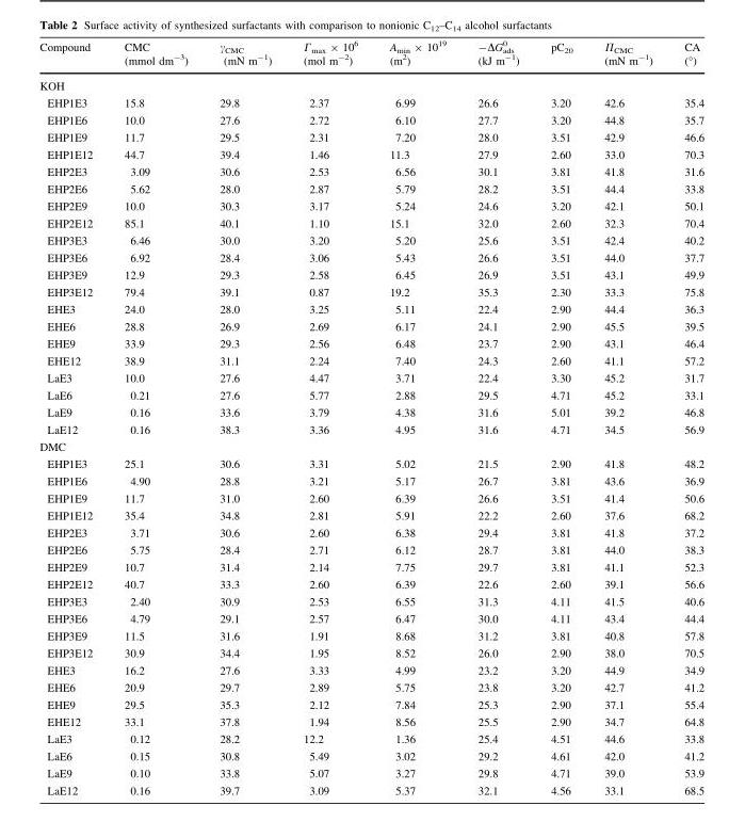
<table><thead><tr><td>Compound</td><td>CMC (mmol dm<sup>-3</sup>)</td><td>γ<sub>CMC</sub> (mN m<sup>-1</sup>)</td><td>Γ<sub>max</sub> × 10<sup>6</sup> (mol m<sup>-2</sup>)</td><td>A<sub>min</sub> × 10<sup>19</sup> (m<sup>2</sup>)</td><td>-ΔG<sub>ads</sub> <sup>0</sup> (kJ m<sup>-1</sup>)</td><td>pC<sub>20</sub></td><td>Π<sub>CMC</sub> (mN m<sup>-1</sup>)</td><td>CA (°)</td></tr></thead><tbody><tr><td colspan="9">KOH</td></tr><tr><td>EHP1E3</td><td>15.8</td><td>29.8</td><td>2.37</td><td>6.99</td><td>26.6</td><td>3.20</td><td>42.6</td><td>35.4</td></tr><tr><td>EHP1E6</td><td>10.0</td><td>27.6</td><td>2.72</td><td>6.10</td><td>27.7</td><td>3.20</td><td>44.8</td><td>35.7</td></tr><tr><td>EHP1E9</td><td>11.7</td><td>29.5</td><td>2.31</td><td>7.20</td><td>28.0</td><td>3.51</td><td>42.9</td><td>46.6</td></tr><tr><td>EHP1E12</td><td>44.7</td><td>39.4</td><td>1.46</td><td>11.3</td><td>27.9</td><td>2.60</td><td>33.0</td><td>70.3</td></tr><tr><td>EHP2E3</td><td>3.09</td><td>30.6</td><td>2.53</td><td>6.56</td><td>30.1</td><td>3.81</td><td>41.8</td><td>31.6</td></tr><tr><td>EHP2E6</td><td>5.62</td><td>28.0</td><td>2.87</td><td>5.79</td><td>28.2</td><td>3.51</td><td>44.4</td><td>33.8</td></tr><tr><td>EHP2E9</td><td>10.0</td><td>30.3</td><td>3.17</td><td>5.24</td><td>24.6</td><td>3.20</td><td>42.1</td><td>50.1</td></tr><tr><td>EHP2E12</td><td>85.1</td><td>40.1</td><td>1.10</td><td>15.1</td><td>32.0</td><td>2.60</td><td>32.3</td><td>70.4</td></tr><tr><td>EHP3E3</td><td>6.46</td><td>30.0</td><td>3.20</td><td>5.20</td><td>25.6</td><td>3.51</td><td>42.4</td><td>40.2</td></tr><tr><td>EHP3E6</td><td>6.92</td><td>28.4</td><td>3.06</td><td>5.43</td><td>26.6</td><td>3.51</td><td>44.0</td><td>37.7</td></tr><tr><td>EHP3E9</td><td>12.9</td><td>29.3</td><td>2.58</td><td>6.45</td><td>26.9</td><td>3.51</td><td>43.1</td><td>49.9</td></tr><tr><td>EHP3E12</td><td>79.4</td><td>39.1</td><td>0.87</td><td>19.2</td><td>35.3</td><td>2.30</td><td>33.3</td><td>75.8</td></tr><tr><td>EHE3</td><td>24.0</td><td>28.0</td><td>3.25</td><td>5.11</td><td>22.4</td><td>2.90</td><td>44.4</td><td>36.3</td></tr><tr><td>EHE6</td><td>28.8</td><td>26.9</td><td>2.69</td><td>6.17</td><td>24.1</td><td>2.90</td><td>45.5</td><td>39.5</td></tr><tr><td>EHE9</td><td>33.9</td><td>29.3</td><td>2.56</td><td>6.48</td><td>23.7</td><td>2.90</td><td>43.1</td><td>46.4</td></tr><tr><td>EHE12</td><td>38.9</td><td>31.1</td><td>2.24</td><td>7.40</td><td>24.3</td><td>2.60</td><td>41.1</td><td>57.2</td></tr><tr><td>LaE3</td><td>10.0</td><td>27.6</td><td>4.47</td><td>3.71</td><td>22.4</td><td>3.30</td><td>45.2</td><td>31.7</td></tr><tr><td>LaE6</td><td>0.21</td><td>27.6</td><td>5.77</td><td>2.88</td><td>29.5</td><td>4.71</td><td>45.2</td><td>33.1</td></tr><tr><td>LaE9</td><td>0.16</td><td>33.6</td><td>3.79</td><td>4.38</td><td>31.6</td><td>5.01</td><td>39.2</td><td>46.8</td></tr><tr><td>LaE12</td><td>0.16</td><td>38.3</td><td>3.36</td><td>4.95</td><td>31.6</td><td>4.71</td><td>34.5</td><td>56.9</td></tr><tr><td colspan="9">DMC</td></tr><tr><td>EHP1E3</td><td>25.1</td><td>30.6</td><td>3.31</td><td>5.02</td><td>21.5</td><td>2.90</td><td>41.8</td><td>48.2</td></tr><tr><td>EHP1E6</td><td>4.90</td><td>28.8</td><td>3.21</td><td>5.17</td><td>26.7</td><td>3.81</td><td>43.6</td><td>36.9</td></tr><tr><td>EHP1E9</td><td>11.7</td><td>31.0</td><td>2.60</td><td>6.39</td><td>26.6</td><td>3.51</td><td>41.4</td><td>50.6</td></tr><tr><td>EHP1E12</td><td>35.4</td><td>34.8</td><td>2.81</td><td>5.91</td><td>22.2</td><td>2.60</td><td>37.6</td><td>68.2</td></tr><tr><td>EHP2E3</td><td>3.71</td><td>30.6</td><td>2.60</td><td>6.38</td><td>29.4</td><td>3.81</td><td>41.8</td><td>37.2</td></tr><tr><td>EHP2E6</td><td>5.75</td><td>28.4</td><td>2.71</td><td>6.12</td><td>28.7</td><td>3.81</td><td>44.0</td><td>38.3</td></tr><tr><td>EHP2E9</td><td>10.7</td><td>31.4</td><td>2.14</td><td>7.75</td><td>29.7</td><td>3.81</td><td>41.1</td><td>52.3</td></tr><tr><td>EHP2E12</td><td>40.7</td><td>33.3</td><td>2.60</td><td>6.39</td><td>22.6</td><td>2.60</td><td>39.1</td><td>56.6</td></tr><tr><td>EHP3E3</td><td>2.40</td><td>30.9</td><td>2.53</td><td>6.55</td><td>31.3</td><td>4.11</td><td>41.5</td><td>40.6</td></tr><tr><td>EHP3E6</td><td>4.79</td><td>29.1</td><td>2.57</td><td>6.47</td><td>30.0</td><td>4.11</td><td>43.4</td><td>44.4</td></tr><tr><td>EHP3E9</td><td>11.5</td><td>31.6</td><td>1.91</td><td>8.68</td><td>31.2</td><td>3.81</td><td>40.8</td><td>57.8</td></tr><tr><td>EHP3E12</td><td>30.9</td><td>34.4</td><td>1.95</td><td>8.52</td><td>26.0</td><td>2.90</td><td>38.0</td><td>70.5</td></tr><tr><td>EHE3</td><td>16.2</td><td>27.6</td><td>3.33</td><td>4.99</td><td>23.2</td><td>3.20</td><td>44.9</td><td>34.9</td></tr><tr><td>EHE6</td><td>20.9</td><td>29.7</td><td>2.89</td><td>5.75</td><td>23.8</td><td>3.20</td><td>42.7</td><td>41.2</td></tr><tr><td>EHE9</td><td>29.5</td><td>35.3</td><td>2.12</td><td>7.84</td><td>25.3</td><td>2.90</td><td>37.1</td><td>55.4</td></tr><tr><td>EHE12</td><td>33.1</td><td>37.8</td><td>1.94</td><td>8.56</td><td>25.5</td><td>2.90</td><td>34.7</td><td>64.8</td></tr><tr><td>LaE3</td><td>0.12</td><td>28.2</td><td>12.2</td><td>1.36</td><td>25.4</td><td>4.51</td><td>44.6</td><td>33.8</td></tr><tr><td>LaE6</td><td>0.15</td><td>30.8</td><td>5.49</td><td>3.02</td><td>29.2</td><td>4.61</td><td>42.0</td><td>41.2</td></tr><tr><td>LaE9</td><td>0.10</td><td>33.8</td><td>5.07</td><td>3.27</td><td>29.8</td><td>4.71</td><td>39.0</td><td>53.9</td></tr><tr><td>LaE12</td><td>0.16</td><td>39.7</td><td>3.09</td><td>5.37</td><td>32.1</td><td>4.56</td><td>33.1</td><td>68.5</td></tr></tbody></table>